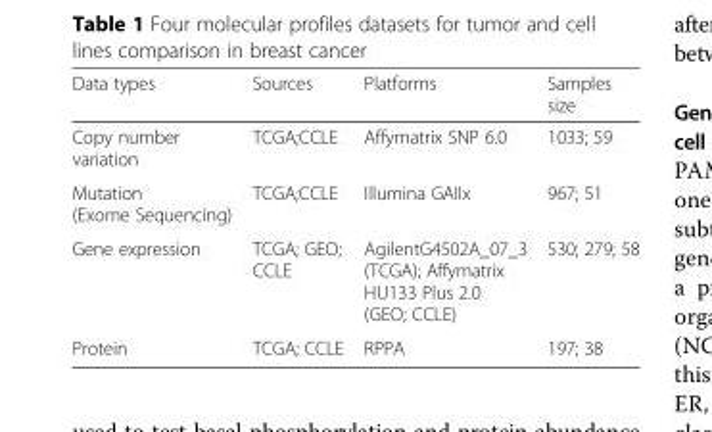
<table><thead><tr><td>Data types</td><td>Sources</td><td>Platforms</td><td>Samples size</td></tr></thead><tbody><tr><td>Copy number variation</td><td>TCGA;CCLE</td><td>Affymatrix SNP 6.0</td><td>1033; 59</td></tr><tr><td>Mutation (Exome Sequencing)</td><td>TCGA;CCLE</td><td>Illumina GAIIx</td><td>967; 51</td></tr><tr><td>Gene expression</td><td>TCGA; GEO; CCLE</td><td>AgilentG4502A_07_3 (TCGA); Affymatrix HU133 Plus 2.0 (GEO; CCLE)</td><td>530; 279; 58</td></tr><tr><td>Protein</td><td>TCGA; CCLE</td><td>RPPA</td><td>197; 38</td></tr></tbody></table>